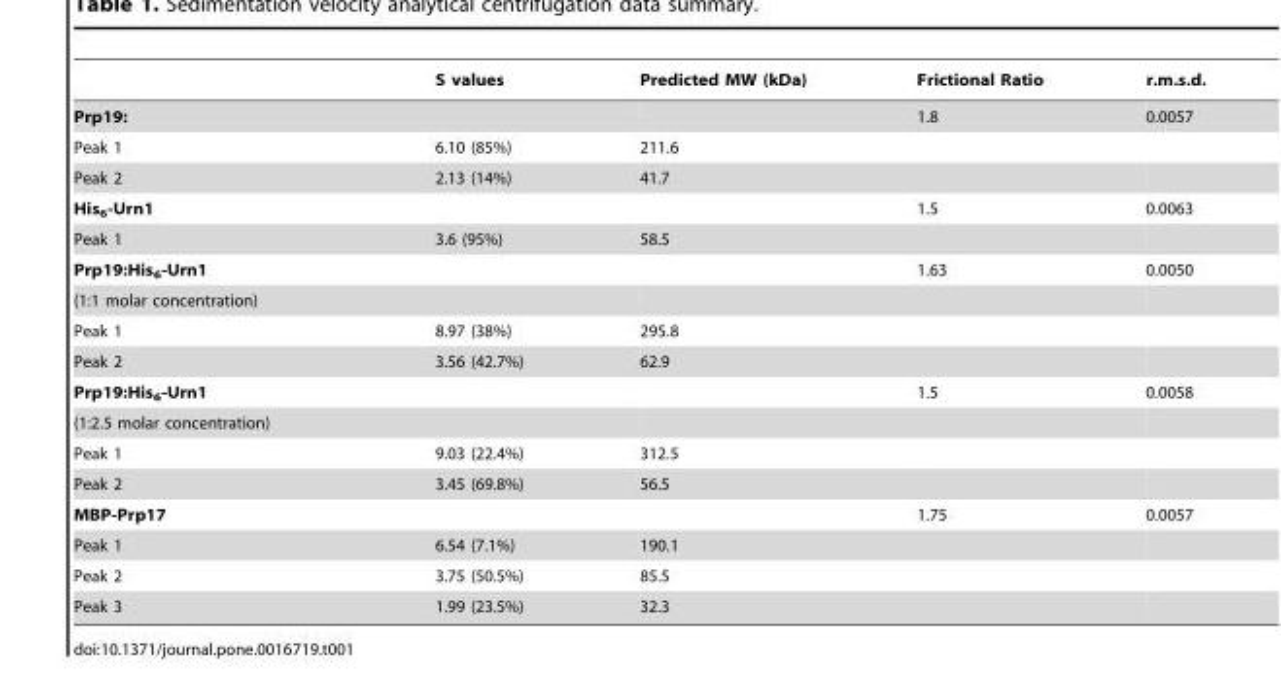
<table><thead><tr><td></td><td>S values</td><td>Predicted MW (kDa)</td><td>Frictional Ratio</td><td>r.m.s.d.</td></tr></thead><tbody><tr><td>Prp19:</td><td></td><td></td><td>1.8</td><td>0.0057</td></tr><tr><td>Peak 1</td><td>6.10 (85%)</td><td>211.6</td><td></td><td></td></tr><tr><td>Peak 2</td><td>2.13 (14%)</td><td>41.7</td><td></td><td></td></tr><tr><td>His<sub>6</sub>-Urn1</td><td></td><td></td><td>1.5</td><td>0.0063</td></tr><tr><td>Peak 1</td><td>3.6 (95%)</td><td>58.5</td><td></td><td></td></tr><tr><td>Prp19:His<sub>6</sub>-Urn1</td><td></td><td></td><td>1.63</td><td>0.0050</td></tr><tr><td colspan="5">(1:1 molar concentration)</td></tr><tr><td>Peak 1</td><td>8.97 (38%)</td><td>295.8</td><td></td><td></td></tr><tr><td>Peak 2</td><td>3.56 (42.7%)</td><td>62.9</td><td></td><td></td></tr><tr><td>Prp19:His<sub>6</sub>-Urn1</td><td></td><td></td><td>1.5</td><td>0.0058</td></tr><tr><td colspan="5">(1:2.5 molar concentration)</td></tr><tr><td>Peak 1</td><td>9.03 (22.4%)</td><td>312.5</td><td></td><td></td></tr><tr><td>Peak 2</td><td>3.45 (69.8%)</td><td>56.5</td><td></td><td></td></tr><tr><td>MBP-Prp17</td><td></td><td></td><td>1.75</td><td>0.0057</td></tr><tr><td>Peak 1</td><td>6.54 (7.1%)</td><td>190.1</td><td></td><td></td></tr><tr><td>Peak 2</td><td>3.75 (50.5%)</td><td>85.5</td><td></td><td></td></tr><tr><td>Peak 3</td><td>1.99 (23.5%)</td><td>32.3</td><td></td><td></td></tr></tbody></table>